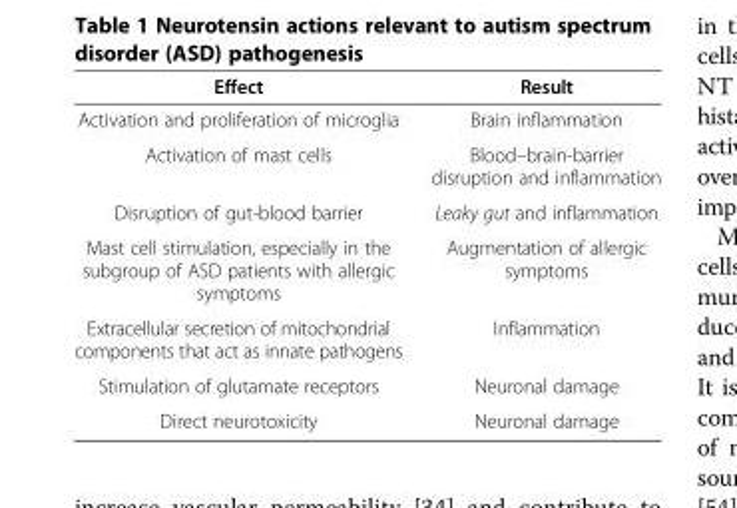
<table><thead><tr><td>Effect</td><td>Result</td></tr></thead><tbody><tr><td>Activation and proliferation of microglia</td><td>Brain inflammation</td></tr><tr><td>Activation of mast cells</td><td>Blood–brain-barrier disruption and inflammation</td></tr><tr><td>Disruption of gut-blood barrier</td><td>Leaky gut and inflammation</td></tr><tr><td>Mast cell stimulation, especially in the subgroup of ASD patients with allergic symptoms</td><td>Augmentation of allergic symptoms</td></tr><tr><td>Extracellular secretion of mitochondrial components that act as innate pathogens</td><td>Inflammation</td></tr><tr><td>Stimulation of glutamate receptors</td><td>Neuronal damage</td></tr><tr><td>Direct neurotoxicity</td><td>Neuronal damage</td></tr></tbody></table>